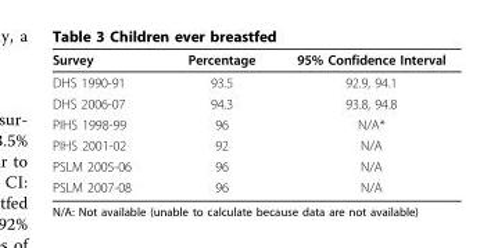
<table><thead><tr><td>Survey</td><td>Percentage</td><td>95% Confidence Interval</td></tr></thead><tbody><tr><td>DHS 1990-91</td><td>93.5</td><td>92.9, 94.1</td></tr><tr><td>DHS 2006-07</td><td>94.3</td><td>93.8, 94.8</td></tr><tr><td>PIHS 1998-99</td><td>96</td><td>N/A*</td></tr><tr><td>PIHS 2001-02</td><td>92</td><td>N/A</td></tr><tr><td>PSLM 2005-06</td><td>96</td><td>N/A</td></tr><tr><td>PSLM 2007-08</td><td>96</td><td>N/A</td></tr></tbody></table>